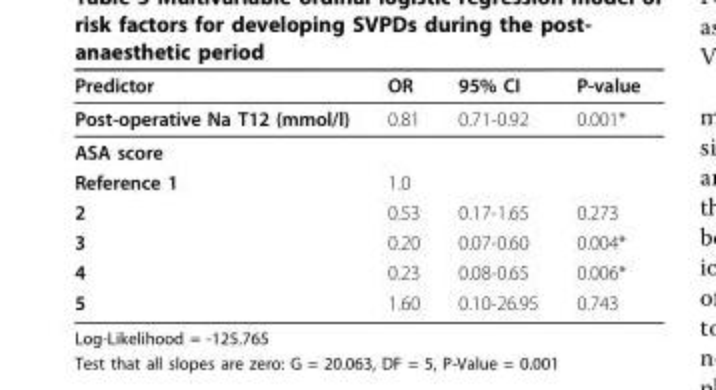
<table><thead><tr><td>Predictor</td><td>OR</td><td>95% CI</td><td>P-value</td></tr></thead><tbody><tr><td>Post-operative Na T12 (mmol/l)</td><td>0.81</td><td>0.71-0.92</td><td>0.001*</td></tr><tr><td colspan="4">ASA score</td></tr><tr><td>Reference 1</td><td>1.0</td><td></td><td></td></tr><tr><td>2</td><td>0.53</td><td>0.17-1.65</td><td>0.273</td></tr><tr><td>3</td><td>0.20</td><td>0.07-0.60</td><td>0.004*</td></tr><tr><td>4</td><td>0.23</td><td>0.08-0.65</td><td>0.006*</td></tr><tr><td>5</td><td>1.60</td><td>0.10-26.95</td><td>0.743</td></tr></tbody></table>